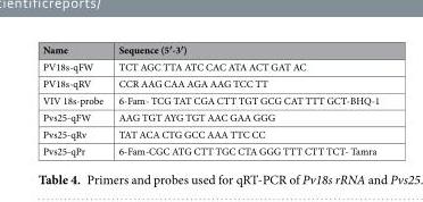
<table><thead><tr><td>Name</td><td>Sequence (5′-3′)</td></tr></thead><tbody><tr><td>PV18s-qFW</td><td>TCT AGC TTA ATC CAC ATA ACT GAT AC</td></tr><tr><td>PV18s-qRV</td><td>CCR AAG CAA AGA AAG TCC TT</td></tr><tr><td>VIV 18s-probe</td><td>6-Fam- TCG TAT CGA CTT TGT GCG CAT TTT GCT-BHQ-1</td></tr><tr><td>Pvs25-qFW</td><td>AAG TGT AYG TGT AAC GAA GGG</td></tr><tr><td>Pvs25-qRv</td><td>TAT ACA CTG GCC AAA TTC CC</td></tr><tr><td>Pvs25-qPr</td><td>6-Fam-CGC ATG CTT TGC CTA GGG TTT CTT TCT- Tamra</td></tr></tbody></table>